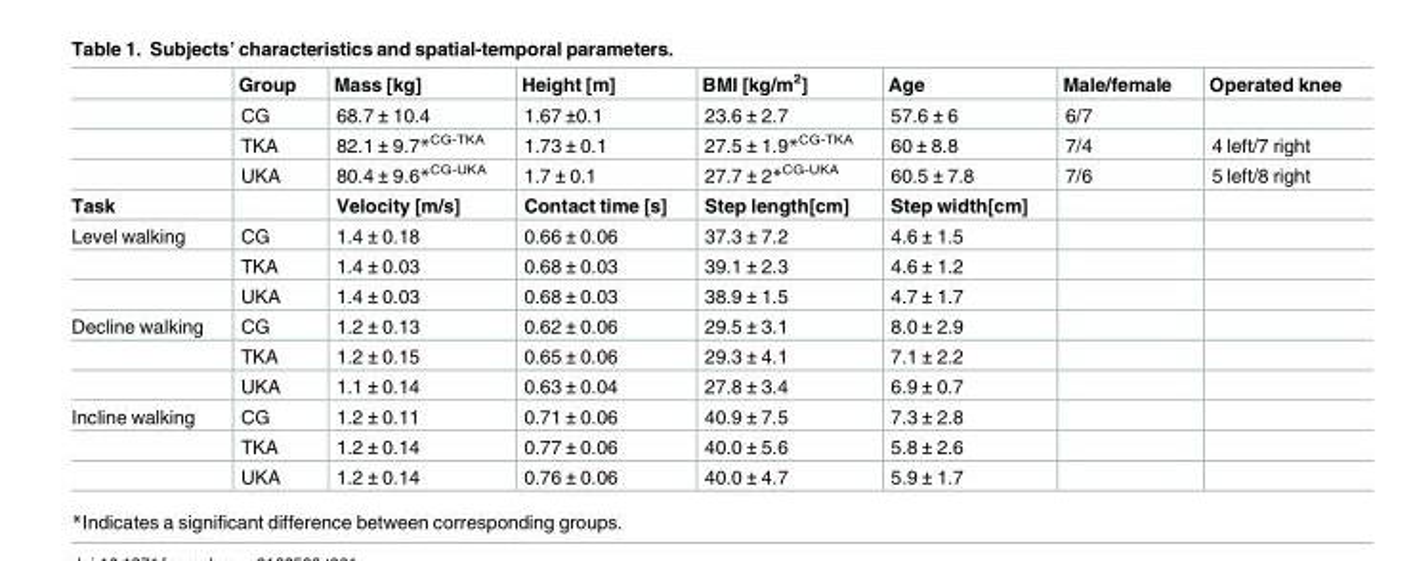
<table><thead><tr><td></td><td>Group</td><td>Mass [kg]</td><td>Height [m]</td><td>BMI [kg/m<sup>2</sup>]</td><td>Age</td><td>Male/female</td><td>Operated knee</td></tr></thead><tbody><tr><td></td><td>CG</td><td>68.7 ± 10.4</td><td>1.67 ±0.1</td><td>23.6 ± 2.7</td><td>57.6 ± 6</td><td>6/7</td><td></td></tr><tr><td></td><td>TKA</td><td>82.1 ± 9.7*<sup>CG-TKA</sup></td><td>1.73 ± 0.1</td><td>27.5 ± 1.9*<sup>CG-TKA</sup></td><td>60 ± 8.8</td><td>7/4</td><td>4 left/7 right</td></tr><tr><td></td><td>UKA</td><td>80.4 ± 9.6*<sup>CG-UKA</sup></td><td>1.7 ± 0.1</td><td>27.7 ± 2*<sup>CG-UKA</sup></td><td>60.5 ± 7.8</td><td>7/6</td><td>5 left/8 right</td></tr><tr><td>Task</td><td></td><td>Velocity [m/s]</td><td>Contact time [s]</td><td>Step length[cm]</td><td>Step width[cm]</td><td></td><td></td></tr><tr><td rowspan="3">Level walking</td><td>CG</td><td>1.4 ± 0.18</td><td>0.66 ± 0.06</td><td>37.3 ± 7.2</td><td>4.6 ± 1.5</td><td></td><td></td></tr><tr><td>TKA</td><td>1.4 ± 0.03</td><td>0.68 ± 0.03</td><td>39.1 ± 2.3</td><td>4.6 ± 1.2</td><td></td><td></td></tr><tr><td>UKA</td><td>1.4 ± 0.03</td><td>0.68 ± 0.03</td><td>38.9 ± 1.5</td><td>4.7 ± 1.7</td><td></td><td></td></tr><tr><td rowspan="3">Decline walking</td><td>CG</td><td>1.2 ± 0.13</td><td>0.62 ± 0.06</td><td>29.5 ± 3.1</td><td>8.0 ± 2.9</td><td></td><td></td></tr><tr><td>TKA</td><td>1.2 ± 0.15</td><td>0.65 ± 0.06</td><td>29.3 ± 4.1</td><td>7.1 ± 2.2</td><td></td><td></td></tr><tr><td>UKA</td><td>1.1 ± 0.14</td><td>0.63 ± 0.04</td><td>27.8 ± 3.4</td><td>6.9 ± 0.7</td><td></td><td></td></tr><tr><td rowspan="3">Incline walking</td><td>CG</td><td>1.2 ± 0.11</td><td>0.71 ± 0.06</td><td>40.9 ± 7.5</td><td>7.3 ± 2.8</td><td></td><td></td></tr><tr><td>TKA</td><td>1.2 ± 0.14</td><td>0.77 ± 0.06</td><td>40.0 ± 5.6</td><td>5.8 ± 2.6</td><td></td><td></td></tr><tr><td>UKA</td><td>1.2 ± 0.14</td><td>0.76 ± 0.06</td><td>40.0 ± 4.7</td><td>5.9 ± 1.7</td><td></td><td></td></tr></tbody></table>